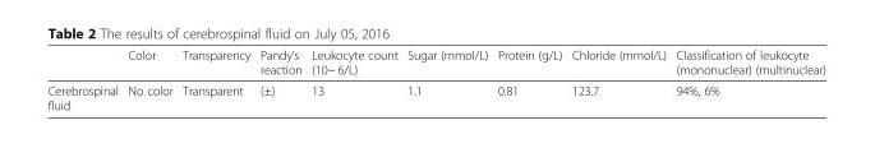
<table><thead><tr><td></td><td>Color</td><td>Transparency</td><td>Pandy’s reaction</td><td>Leukocyte count (10~ 6/L)</td><td>Sugar (mmol/L)</td><td>Protein (g/L)</td><td>Chloride (mmol/L)</td><td>Classification of leukocyte (mononuclear) (multinuclear)</td></tr></thead><tbody><tr><td>Cerebrospinal fluid</td><td>No color</td><td>Transparent</td><td>(±)</td><td>13</td><td>1.1</td><td>0.81</td><td>123.7</td><td>94%, 6%</td></tr></tbody></table>